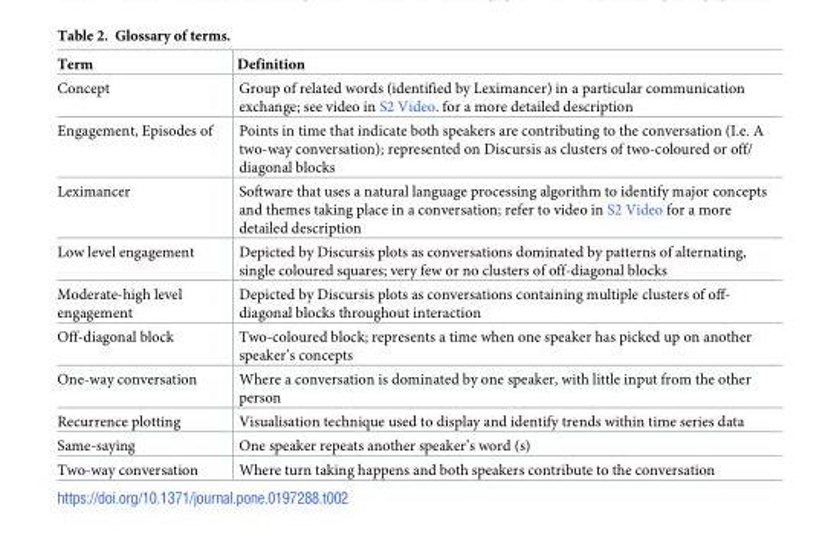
<table><thead><tr><td>Term</td><td>Definition</td></tr></thead><tbody><tr><td>Concept</td><td>Group of related words (identified by Leximancer) in a particular communication exchange; see video in S2 Video. for a more detailed description</td></tr><tr><td>Engagement, Episodes of</td><td>Points in time that indicate both speakers are contributing to the conversation (I.e. A two-way conversation); represented on Discursis as clusters of two-coloured or off/ diagonal blocks</td></tr><tr><td>Leximancer</td><td>Software that uses a natural language processing algorithm to identify major concepts and themes taking place in a conversation; refer to video in S2 Video for a more detailed description</td></tr><tr><td>Low level engagement</td><td>Depicted by Discursis plots as conversations dominated by patterns of alternating, single coloured squares; very few or no clusters of off-diagonal blocks</td></tr><tr><td>Moderate-high level engagement</td><td>Depicted by Discursis plots as conversations containing multiple clusters of off- diagonal blocks throughout interaction</td></tr><tr><td>Off-diagonal block</td><td>Two-coloured block; represents a time when one speaker has picked up on another speaker’s concepts</td></tr><tr><td>One-way conversation</td><td>Where a conversation is dominated by one speaker, with little input from the other person</td></tr><tr><td>Recurrence plotting</td><td>Visualisation technique used to display and identify trends within time series data</td></tr><tr><td>Same-saying</td><td>One speaker repeats another speaker’s word (s)</td></tr><tr><td>Two-way conversation</td><td>Where turn taking happens and both speakers contribute to the conversation</td></tr></tbody></table>